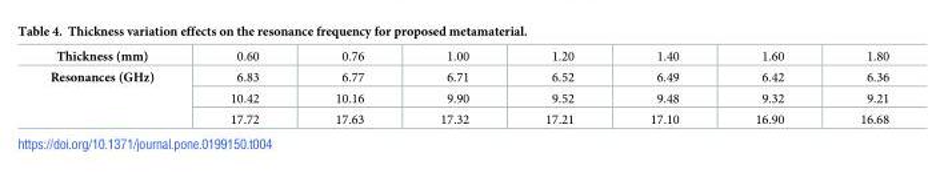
<table><tbody><tr><td>Thickness (mm)</td><td>0.60</td><td>0.76</td><td>1.00</td><td>1.20</td><td>1.40</td><td>1.60</td><td>1.80</td></tr><tr><td rowspan="3">Resonances (GHz)</td><td>6.83</td><td>6.77</td><td>6.71</td><td>6.52</td><td>6.49</td><td>6.42</td><td>6.36</td></tr><tr><td>10.42</td><td>10.16</td><td>9.90</td><td>9.52</td><td>9.48</td><td>9.32</td><td>9.21</td></tr><tr><td>17.72</td><td>17.63</td><td>17.32</td><td>17.21</td><td>17.10</td><td>16.90</td><td>16.68</td></tr></tbody></table>